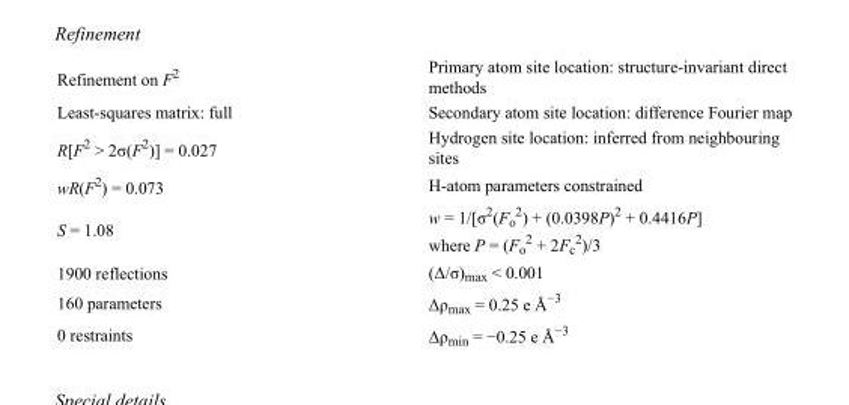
<table><tbody><tr><td>Refinement on F<sup>2</sup></td><td>Primary atom site location: structure-invariant direct methods</td></tr><tr><td>Least-squares matrix: full</td><td>Secondary atom site location: difference Fourier map</td></tr><tr><td>R[F<sup>2</sup> &gt; 2σ(F<sup>2</sup>)] = 0.027</td><td>Hydrogen site location: inferred from neighbouring sites</td></tr><tr><td>wR(F<sup>2</sup>) = 0.073</td><td>H-atom parameters constrained</td></tr><tr><td>S = 1.08</td><td>w = 1/[σ<sup>2</sup>(F<sub>o</sub> <sup>2</sup>) + (0.0398P)<sup>2</sup> + 0.4416P] where P = (F<sub>o</sub> <sup>2</sup> + 2F<sub>c</sub> <sup>2</sup>)/3</td></tr><tr><td>1900 reflections</td><td>(Δ/σ)<sub>max</sub> &lt; 0.001</td></tr><tr><td>160 parameters</td><td>Δρ<sub>max</sub> = 0.25 e Å<sup>−3</sup></td></tr><tr><td>0 restraints</td><td>Δρ<sub>min</sub> = −0.25 e Å<sup>−3</sup></td></tr></tbody></table>